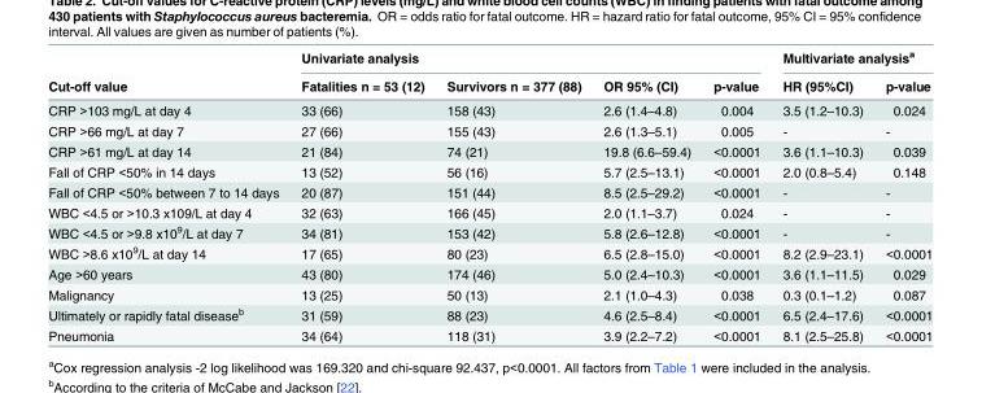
<table><thead><tr><td rowspan="2">Cut-off value</td><td colspan="4">Univariate analysis</td><td colspan="2">Multivariate analysis<sup>a</sup></td></tr><tr><td>Fatalities n = 53 (12)</td><td>Survivors n = 377 (88)</td><td>OR 95% (CI)</td><td>p-value</td><td>HR (95%CI)</td><td>p-value</td></tr></thead><tbody><tr><td>CRP &gt;103 mg/L at day 4</td><td>33 (66)</td><td>158 (43)</td><td>2.6 (1.4–4.8)</td><td>0.004</td><td>3.5 (1.2–10.3)</td><td>0.024</td></tr><tr><td>CRP &gt;66 mg/L at day 7</td><td>27 (66)</td><td>155 (43)</td><td>2.6 (1.3–5.1)</td><td>0.005</td><td>-</td><td>-</td></tr><tr><td>CRP &gt;61 mg/L at day 14</td><td>21 (84)</td><td>74 (21)</td><td>19.8 (6.6–59.4)</td><td>&lt;0.0001</td><td>3.6 (1.1–10.3)</td><td>0.039</td></tr><tr><td>Fall of CRP &lt;50% in 14 days</td><td>13 (52)</td><td>56 (16)</td><td>5.7 (2.5–13.1)</td><td>&lt;0.0001</td><td>2.0 (0.8–5.4)</td><td>0.148</td></tr><tr><td>Fall of CRP &lt;50% between 7 to 14 days</td><td>20 (87)</td><td>151 (44)</td><td>8.5 (2.5–29.2)</td><td>&lt;0.0001</td><td>-</td><td>-</td></tr><tr><td>WBC &lt;4.5 or &gt;10.3 x109/L at day 4</td><td>32 (63)</td><td>166 (45)</td><td>2.0 (1.1–3.7)</td><td>0.024</td><td>-</td><td>-</td></tr><tr><td>WBC &lt;4.5 or &gt;9.8 x10<sup>9</sup>/L at day 7</td><td>34 (81)</td><td>153 (42)</td><td>5.8 (2.6–12.8)</td><td>&lt;0.0001</td><td>-</td><td>-</td></tr><tr><td>WBC &gt;8.6 x10<sup>9</sup>/L at day 14</td><td>17 (65)</td><td>80 (23)</td><td>6.5 (2.8–15.0)</td><td>&lt;0.0001</td><td>8.2 (2.9–23.1)</td><td>&lt;0.0001</td></tr><tr><td>Age &gt;60 years</td><td>43 (80)</td><td>174 (46)</td><td>5.0 (2.4–10.3)</td><td>&lt;0.0001</td><td>3.6 (1.1–11.5)</td><td>0.029</td></tr><tr><td>Malignancy</td><td>13 (25)</td><td>50 (13)</td><td>2.1 (1.0–4.3)</td><td>0.038</td><td>0.3 (0.1–1.2)</td><td>0.087</td></tr><tr><td>Ultimately or rapidly fatal disease<sup>b</sup></td><td>31 (59)</td><td>88 (23)</td><td>4.6 (2.5–8.4)</td><td>&lt;0.0001</td><td>6.5 (2.4–17.6)</td><td>&lt;0.0001</td></tr><tr><td>Pneumonia</td><td>34 (64)</td><td>118 (31)</td><td>3.9 (2.2–7.2)</td><td>&lt;0.0001</td><td>8.1 (2.5–25.8)</td><td>&lt;0.0001</td></tr></tbody></table>